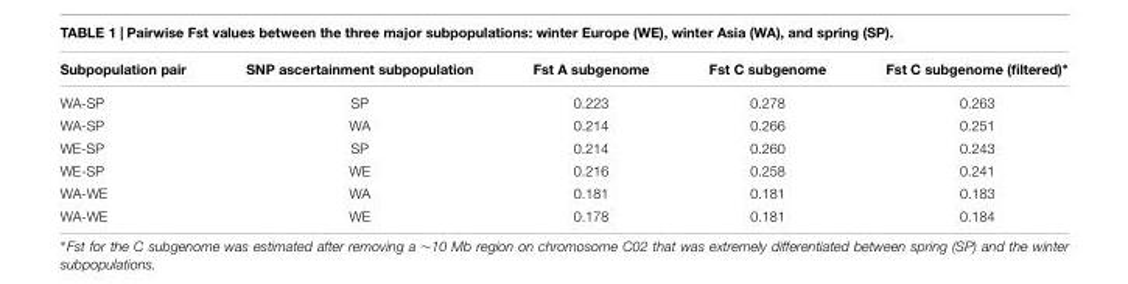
<table><thead><tr><td>Subpopulation pair</td><td>SNP ascertainment subpopulation</td><td>Fst A subgenome</td><td>Fst C subgenome</td><td>Fst C subgenome (filtered)∗</td></tr></thead><tbody><tr><td>WA-SP</td><td>SP</td><td>0.223</td><td>0.278</td><td>0.263</td></tr><tr><td>WA-SP</td><td>WA</td><td>0.214</td><td>0.266</td><td>0.251</td></tr><tr><td>WE-SP</td><td>SP</td><td>0.214</td><td>0.260</td><td>0.243</td></tr><tr><td>WE-SP</td><td>WE</td><td>0.216</td><td>0.258</td><td>0.241</td></tr><tr><td>WA-WE</td><td>WA</td><td>0.181</td><td>0.181</td><td>0.183</td></tr><tr><td>WA-WE</td><td>WE</td><td>0.178</td><td>0.181</td><td>0.184</td></tr></tbody></table>